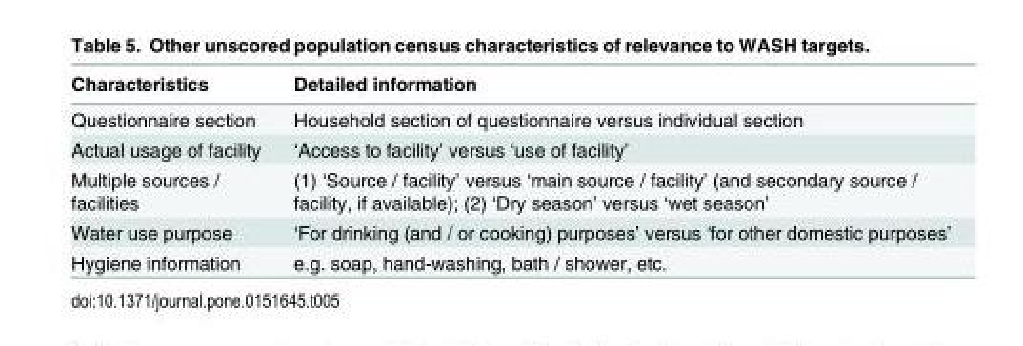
<table><thead><tr><td>Characteristics</td><td>Detailed information</td></tr></thead><tbody><tr><td>Questionnaire section</td><td>Household section of questionnaire versus individual section</td></tr><tr><td>Actual usage of facility</td><td>‘Access to facility’ versus ‘use of facility’</td></tr><tr><td>Multiple sources / facilities</td><td>(1) ‘Source / facility’ versus ‘main source / facility’ (and secondary source / facility, if available); (2) ‘Dry season’ versus ‘wet season’</td></tr><tr><td>Water use purpose</td><td>‘For drinking (and / or cooking) purposes’ versus ‘for other domestic purposes’</td></tr><tr><td>Hygiene information</td><td>e.g. soap, hand-washing, bath / shower, etc.</td></tr></tbody></table>